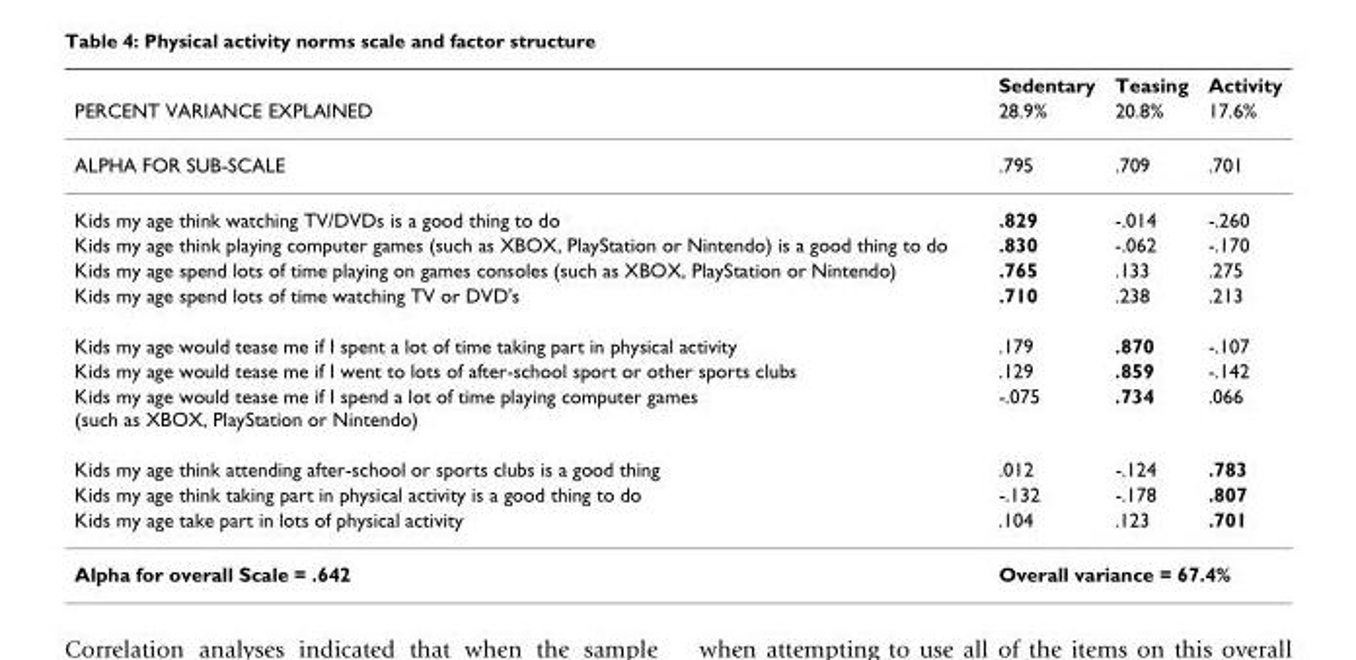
<table><thead><tr><td rowspan="2">PERCENT VARIANCE EXPLAINED</td><td rowspan="2">Sedentary 28.9%</td><td rowspan="2">Teasing 20.8%</td><td rowspan="2">Activity 17.6%</td></tr><tr></tr></thead><tbody><tr><td>ALPHA FOR SUB-SCALE</td><td>.795</td><td>.709</td><td>.701</td></tr><tr><td>Kids my age think watching TV/DVDs is a good thing to do</td><td>.829</td><td>-.014</td><td>-.260</td></tr><tr><td>Kids my age think playing computer games (such as XBOX, PlayStation or Nintendo) is a good thing to do</td><td>.830</td><td>-.062</td><td>-.170</td></tr><tr><td>Kids my age spend lots of time playing on games consoles (such as XBOX, PlayStation or Nintendo)</td><td>.765</td><td>.133</td><td>.275</td></tr><tr><td>Kids my age spend lots of time watching TV or DVD&#x27;s</td><td>.710</td><td>.238</td><td>.213</td></tr><tr><td>Kids my age would tease me if I spent a lot of time taking part in physical activity</td><td>.179</td><td>.870</td><td>-.107</td></tr><tr><td>Kids my age would tease me if I went to lots of after-school sport or other sports clubs</td><td>.129</td><td>.859</td><td>-.142</td></tr><tr><td>Kids my age would tease me if I spend a lot of time playing computer games (such as XBOX, PlayStation or Nintendo)</td><td>-.075</td><td>.734</td><td>.066</td></tr><tr><td>Kids my age think attending after-school or sports clubs is a good thing</td><td>.012</td><td>-.124</td><td>.783</td></tr><tr><td>Kids my age think taking part in physical activity is a good thing to do</td><td>-.132</td><td>-.178</td><td>.807</td></tr><tr><td>Kids my age take part in lots of physical activity</td><td>.104</td><td>.123</td><td>.701</td></tr><tr><td>Alpha for overall Scale = .642</td><td colspan="3">Overall variance = 67.4%</td></tr></tbody></table>